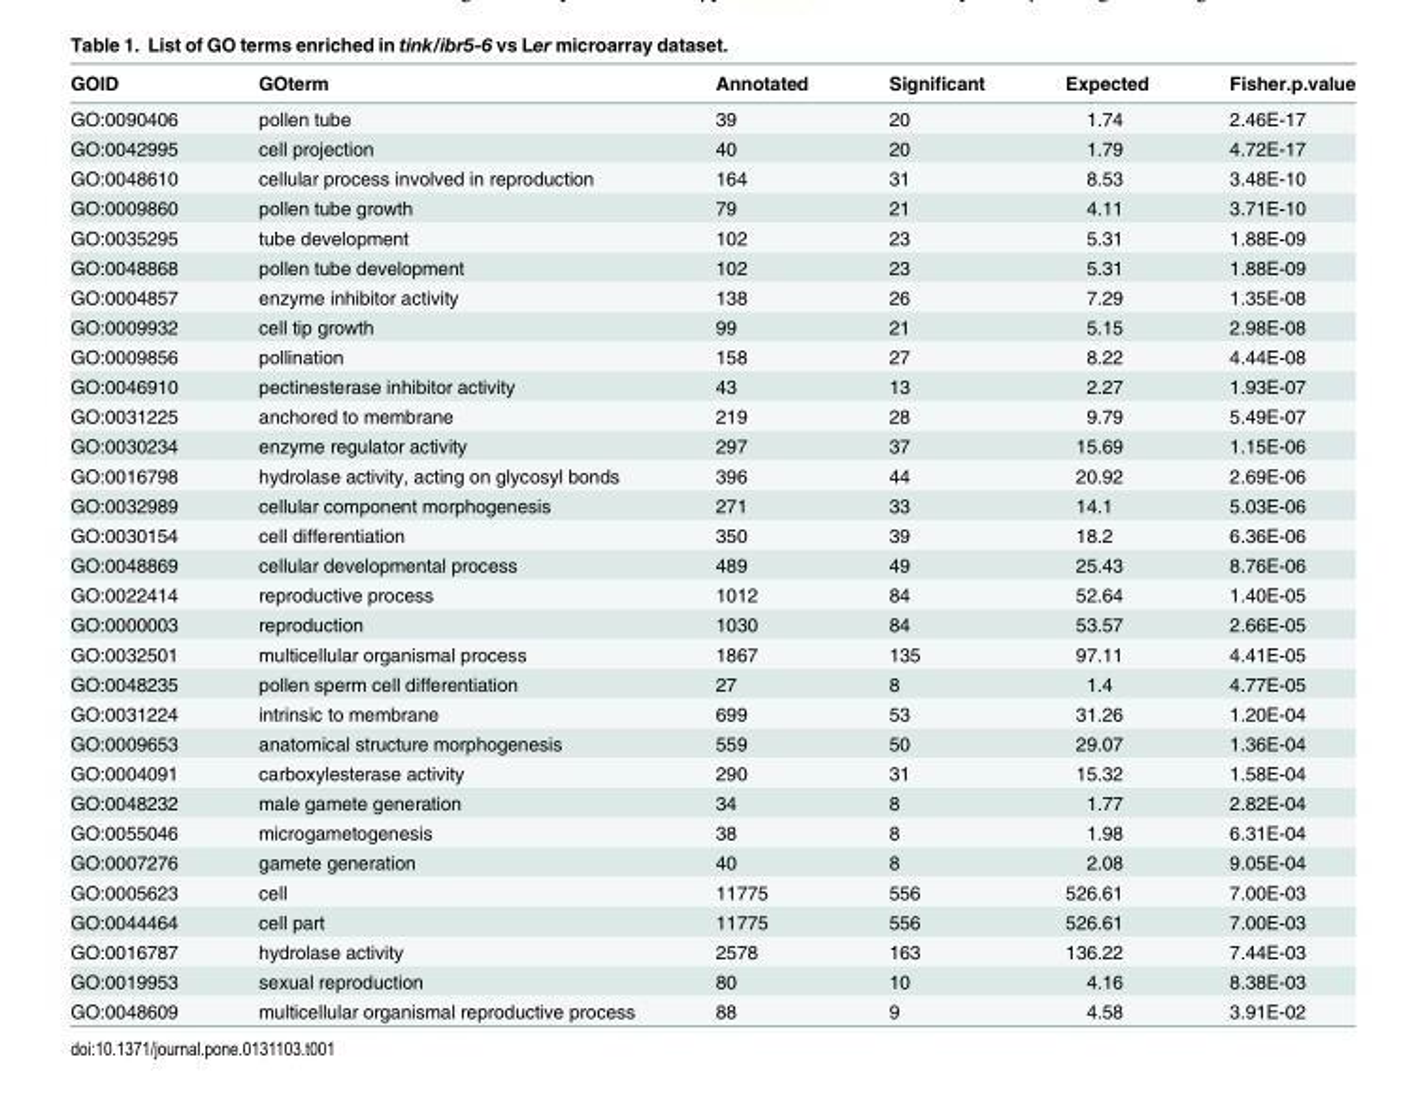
<table><thead><tr><td>GOID</td><td>GOterm</td><td>Annotated</td><td>Significant</td><td>Expected</td><td>Fisher.p.value</td></tr></thead><tbody><tr><td>GO:0090406</td><td>pollen tube</td><td>39</td><td>20</td><td>1.74</td><td>2.46E-17</td></tr><tr><td>GO:0042995</td><td>cell projection</td><td>40</td><td>20</td><td>1.79</td><td>4.72E-17</td></tr><tr><td>GO:0048610</td><td>cellular process involved in reproduction</td><td>164</td><td>31</td><td>8.53</td><td>3.48E-10</td></tr><tr><td>GO:0009860</td><td>pollen tube growth</td><td>79</td><td>21</td><td>4.11</td><td>3.71E-10</td></tr><tr><td>GO:0035295</td><td>tube development</td><td>102</td><td>23</td><td>5.31</td><td>1.88E-09</td></tr><tr><td>GO:0048868</td><td>pollen tube development</td><td>102</td><td>23</td><td>5.31</td><td>1.88E-09</td></tr><tr><td>GO:0004857</td><td>enzyme inhibitor activity</td><td>138</td><td>26</td><td>7.29</td><td>1.35E-08</td></tr><tr><td>GO:0009932</td><td>cell tip growth</td><td>99</td><td>21</td><td>5.15</td><td>2.98E-08</td></tr><tr><td>GO:0009856</td><td>pollination</td><td>158</td><td>27</td><td>8.22</td><td>4.44E-08</td></tr><tr><td>GO:0046910</td><td>pectinesterase inhibitor activity</td><td>43</td><td>13</td><td>2.27</td><td>1.93E-07</td></tr><tr><td>GO:0031225</td><td>anchored to membrane</td><td>219</td><td>28</td><td>9.79</td><td>5.49E-07</td></tr><tr><td>GO:0030234</td><td>enzyme regulator activity</td><td>297</td><td>37</td><td>15.69</td><td>1.15E-06</td></tr><tr><td>GO:0016798</td><td>hydrolase activity, acting on glycosyl bonds</td><td>396</td><td>44</td><td>20.92</td><td>2.69E-06</td></tr><tr><td>GO:0032989</td><td>cellular component morphogenesis</td><td>271</td><td>33</td><td>14.1</td><td>5.03E-06</td></tr><tr><td>GO:0030154</td><td>cell differentiation</td><td>350</td><td>39</td><td>18.2</td><td>6.36E-06</td></tr><tr><td>GO:0048869</td><td>cellular developmental process</td><td>489</td><td>49</td><td>25.43</td><td>8.76E-06</td></tr><tr><td>GO:0022414</td><td>reproductive process</td><td>1012</td><td>84</td><td>52.64</td><td>1.40E-05</td></tr><tr><td>GO:0000003</td><td>reproduction</td><td>1030</td><td>84</td><td>53.57</td><td>2.66E-05</td></tr><tr><td>GO:0032501</td><td>multicellular organismal process</td><td>1867</td><td>135</td><td>97.11</td><td>4.41E-05</td></tr><tr><td>GO:0048235</td><td>pollen sperm cell differentiation</td><td>27</td><td>8</td><td>1.4</td><td>4.77E-05</td></tr><tr><td>GO:0031224</td><td>intrinsic to membrane</td><td>699</td><td>53</td><td>31.26</td><td>1.20E-04</td></tr><tr><td>GO:0009653</td><td>anatomical structure morphogenesis</td><td>559</td><td>50</td><td>29.07</td><td>1.36E-04</td></tr><tr><td>GO:0004091</td><td>carboxylesterase activity</td><td>290</td><td>31</td><td>15.32</td><td>1.58E-04</td></tr><tr><td>GO:0048232</td><td>male gamete generation</td><td>34</td><td>8</td><td>1.77</td><td>2.82E-04</td></tr><tr><td>GO:0055046</td><td>microgametogenesis</td><td>38</td><td>8</td><td>1.98</td><td>6.31E-04</td></tr><tr><td>GO:0007276</td><td>gamete generation</td><td>40</td><td>8</td><td>2.08</td><td>9.05E-04</td></tr><tr><td>GO:0005623</td><td>cell</td><td>11775</td><td>556</td><td>526.61</td><td>7.00E-03</td></tr><tr><td>GO:0044464</td><td>cell part</td><td>11775</td><td>556</td><td>526.61</td><td>7.00E-03</td></tr><tr><td>GO:0016787</td><td>hydrolase activity</td><td>2578</td><td>163</td><td>136.22</td><td>7.44E-03</td></tr><tr><td>GO:0019953</td><td>sexual reproduction</td><td>80</td><td>10</td><td>4.16</td><td>8.38E-03</td></tr><tr><td>GO:0048609</td><td>multicellular organismal reproductive process</td><td>88</td><td>9</td><td>4.58</td><td>3.91E-02</td></tr></tbody></table>